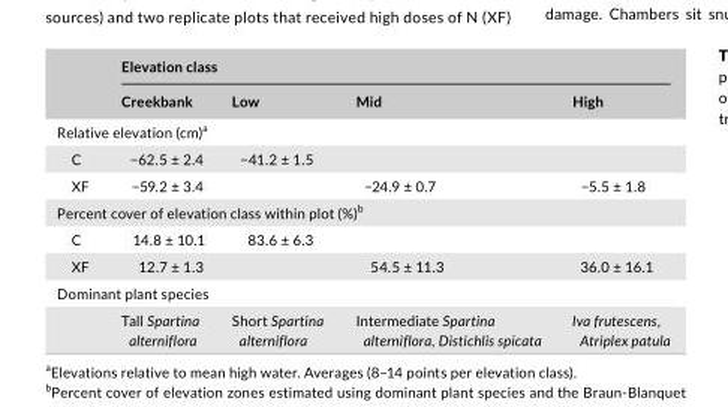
<table><thead><tr><td rowspan="2"></td><td colspan="4">Elevation class</td></tr><tr><td>Creekbank</td><td>Low</td><td>Mid</td><td>High</td></tr></thead><tbody><tr><td colspan="5">Relative elevation (cm)<sup>a</sup></td></tr><tr><td>C</td><td>−62.5 ± 2.4</td><td>−41.2 ± 1.5</td><td></td><td></td></tr><tr><td>XF</td><td>−59.2 ± 3.4</td><td></td><td>−24.9 ± 0.7</td><td>−5.5 ± 1.8</td></tr><tr><td colspan="5">Percent cover of elevation class within plot (%)<sup>b</sup></td></tr><tr><td>C</td><td>14.8 ± 10.1</td><td>83.6 ± 6.3</td><td></td><td></td></tr><tr><td>XF</td><td>12.7 ± 1.3</td><td></td><td>54.5 ± 11.3</td><td>36.0 ± 16.1</td></tr><tr><td colspan="5">Dominant plant species</td></tr><tr><td></td><td>Tall Spartina alterniflora</td><td>Short Spartina alterniflora</td><td>Intermediate Spartina alterniflora, Distichlis spicata</td><td>Iva frutescens, Atriplex patula</td></tr></tbody></table>